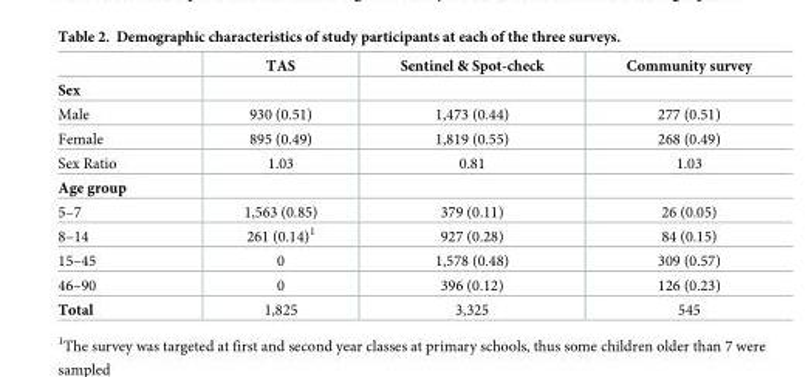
<table><thead><tr><td></td><td>TAS</td><td>Sentinel &amp; Spot-check</td><td>Community survey</td></tr></thead><tbody><tr><td colspan="4">Sex</td></tr><tr><td>Male</td><td>930 (0.51)</td><td>1,473 (0.44)</td><td>277 (0.51)</td></tr><tr><td>Female</td><td>895 (0.49)</td><td>1,819 (0.55)</td><td>268 (0.49)</td></tr><tr><td>Sex Ratio</td><td>1.03</td><td>0.81</td><td>1.03</td></tr><tr><td colspan="4">Age group</td></tr><tr><td>5–7</td><td>1,563 (0.85)</td><td>379 (0.11)</td><td>26 (0.05)</td></tr><tr><td>8–14</td><td>261 (0.14)<sup>1</sup></td><td>927 (0.28)</td><td>84 (0.15)</td></tr><tr><td>15–45</td><td>0</td><td>1,578 (0.48)</td><td>309 (0.57)</td></tr><tr><td>46–90</td><td>0</td><td>396 (0.12)</td><td>126 (0.23)</td></tr><tr><td>Total</td><td>1,825</td><td>3,325</td><td>545</td></tr></tbody></table>